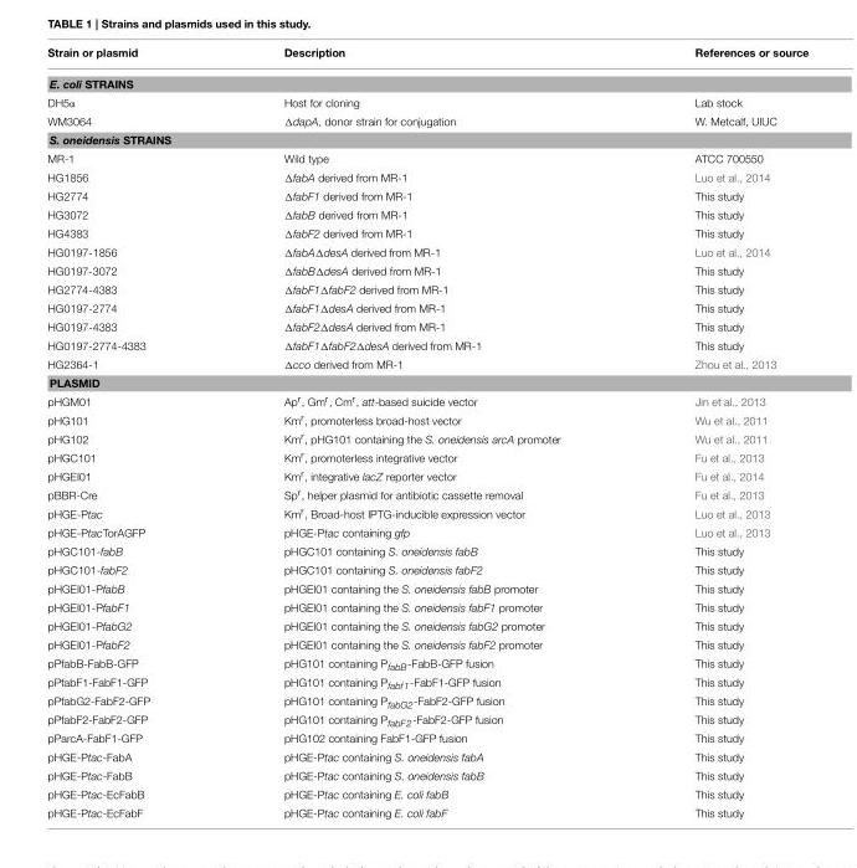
<table><thead><tr><td>Strain or plasmid</td><td>Description</td><td>References or source</td></tr></thead><tbody><tr><td colspan="3">E. coli STRAINS</td></tr><tr><td>DH5α</td><td>Host for cloning</td><td>Lab stock</td></tr><tr><td>WM3064</td><td>ΔdapA, donor strain for conjugation</td><td>W. Metcalf, UIUC</td></tr><tr><td colspan="3">S. oneidensis STRAINS</td></tr><tr><td>MR-1</td><td>Wild type</td><td>ATCC 700550</td></tr><tr><td>HG1856</td><td>ΔfabA derived from MR-1</td><td>Luo et al., 2014</td></tr><tr><td>HG2774</td><td>ΔfabF1 derived from MR-1</td><td>This study</td></tr><tr><td>HG3072</td><td>ΔfabB derived from MR-1</td><td>This study</td></tr><tr><td>HG4383</td><td>ΔfabF2 derived from MR-1</td><td>This study</td></tr><tr><td>HG0197-1856</td><td>ΔfabAΔdesA derived from MR-1</td><td>Luo et al., 2014</td></tr><tr><td>HG0197-3072</td><td>ΔfabBΔdesA derived from MR-1</td><td>This study</td></tr><tr><td>HG2774-4383</td><td>ΔfabF1ΔfabF2 derived from MR-1</td><td>This study</td></tr><tr><td>HG0197-2774</td><td>ΔfabF1ΔdesA derived from MR-1</td><td>This study</td></tr><tr><td>HG0197-4383</td><td>ΔfabF2ΔdesA derived from MR-1</td><td>This study</td></tr><tr><td>HG0197-2774-4383</td><td>ΔfabF1ΔfabF2ΔdesA derived from MR-1</td><td>This study</td></tr><tr><td>HG2364-1</td><td>Δcco derived from MR-1</td><td>Zhou et al., 2013</td></tr><tr><td colspan="3">PLASMID</td></tr><tr><td>pHGM01</td><td>Ap<sup>r</sup>, Gm<sup>r</sup>, Cm<sup>r</sup>, att-based suicide vector</td><td>Jin et al., 2013</td></tr><tr><td>pHG101</td><td>Km<sup>r</sup>, promoterless broad-host vector</td><td>Wu et al., 2011</td></tr><tr><td>pHG102</td><td>Km<sup>r</sup>, pHG101 containing the S. oneidensis arcA promoter</td><td>Wu et al., 2011</td></tr><tr><td>pHGC101</td><td>Km<sup>r</sup>, promoterless integrative vector</td><td>Fu et al., 2013</td></tr><tr><td>pHGEI01</td><td>Km<sup>r</sup>, integrative lacZ reporter vector</td><td>Fu et al., 2014</td></tr><tr><td>pBBR-Cre</td><td>Sp<sup>r</sup>, helper plasmid for antibiotic cassette removal</td><td>Fu et al., 2013</td></tr><tr><td>pHGE-Ptac</td><td>Km<sup>r</sup>, Broad-host IPTG-inducible expression vector</td><td>Luo et al., 2013</td></tr><tr><td>pHGE-PtacTorAGFP</td><td>pHGE-Ptac containing gfp</td><td>Luo et al., 2013</td></tr><tr><td>pHGC101-fabB</td><td>pHGC101 containing S. oneidensis fabB</td><td>This study</td></tr><tr><td>pHGC101-fabF2</td><td>pHGC101 containing S. oneidensis fabF2</td><td>This study</td></tr><tr><td>pHGEI01-PfabB</td><td>pHGEI01 containing the S. oneidensis fabB promoter</td><td>This study</td></tr><tr><td>pHGEI01-PfabF1</td><td>pHGEI01 containing the S. oneidensis fabF1 promoter</td><td>This study</td></tr><tr><td>pHGEI01-PfabG2</td><td>pHGEI01 containing the S. oneidensis fabG2 promoter</td><td>This study</td></tr><tr><td>pHGEI01-PfabF2</td><td>pHGEI01 containing the S. oneidensis fabF2 promoter</td><td>This study</td></tr><tr><td>pPfabB-FabB-GFP</td><td>pHG101 containing PfabB-FabB-GFP fusion</td><td>This study</td></tr><tr><td>pPfabF1-FabF1-GFP</td><td>pHG101 containing Pfabf1-FabF1-GFP fusion</td><td>This study</td></tr><tr><td>pPfabG2-FabF2-GFP</td><td>pHG101 containing PfabG2-FabF2-GFP fusion</td><td>This study</td></tr><tr><td>pPfabF2-FabF2-GFP</td><td>pHG101 containing PfabF2-FabF2-GFP fusion</td><td>This study</td></tr><tr><td>pParcA-FabF1-GFP</td><td>pHG102 containing FabF1-GFP fusion</td><td>This study</td></tr><tr><td>pHGE-Ptac-FabA</td><td>pHGE-Ptac containing S. oneidensis fabA</td><td>This study</td></tr><tr><td>pHGE-Ptac-FabB</td><td>pHGE-Ptac containing S. oneidensis fabB</td><td>This study</td></tr><tr><td>pHGE-Ptac-EcFabB</td><td>pHGE-Ptac containing E. coli fabB</td><td>This study</td></tr><tr><td>pHGE-Ptac-EcFabF</td><td>pHGE-Ptac containing E. coli fabF</td><td>This study</td></tr></tbody></table>